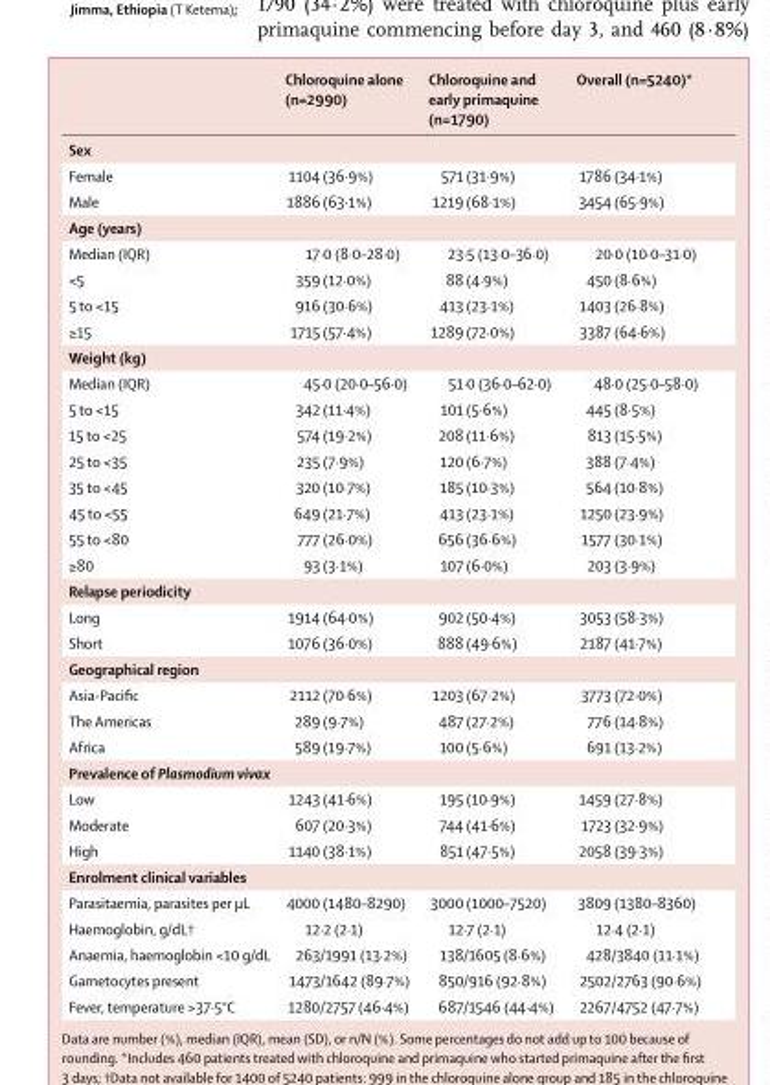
<table><thead><tr><td></td><td>Chloroquine alone (n=2990)</td><td>Chloroquine and early primaquine (n=1790)</td><td>Overall (n=5240)*</td></tr></thead><tbody><tr><td colspan="4">Sex</td></tr><tr><td>Female</td><td>1104 (36·9%)</td><td>571 (31·9%)</td><td>1786 (34·1%)</td></tr><tr><td>Male</td><td>1886 (63·1%)</td><td>1219 (68·1%)</td><td>3454 (65·9%)</td></tr><tr><td colspan="4">Age (years)</td></tr><tr><td>Median (IQR)</td><td>17·0 (8·0–28·0)</td><td>23·5 (13·0–36·0)</td><td>20·0 (10·0–31·0)</td></tr><tr><td>&lt;5</td><td>359 (12·0%)</td><td>88 (4·9%)</td><td>450 (8·6%)</td></tr><tr><td>5 to &lt;15</td><td>916 (30·6%)</td><td>413 (23·1%)</td><td>1403 (26·8%)</td></tr><tr><td>≥15</td><td>1715 (57·4%)</td><td>1289 (72·0%)</td><td>3387 (64·6%)</td></tr><tr><td colspan="4">Weight (kg)</td></tr><tr><td>Median (IQR)</td><td>45·0 (20·0–56·0)</td><td>51·0 (36·0–62·0)</td><td>48·0 (25·0–58·0)</td></tr><tr><td>5 to &lt;15</td><td>342 (11·4%)</td><td>101 (5·6%)</td><td>445 (8·5%)</td></tr><tr><td>15 to &lt;25</td><td>574 (19·2%)</td><td>208 (11·6%)</td><td>813 (15·5%)</td></tr><tr><td>25 to &lt;35</td><td>235 (7·9%)</td><td>120 (6·7%)</td><td>388 (7·4%)</td></tr><tr><td>35 to &lt;45</td><td>320 (10·7%)</td><td>185 (10·3%)</td><td>564 (10·8%)</td></tr><tr><td>45 to &lt;55</td><td>649 (21·7%)</td><td>413 (23·1%)</td><td>1250 (23·9%)</td></tr><tr><td>55 to &lt;80</td><td>777 (26·0%)</td><td>656 (36·6%)</td><td>1577 (30·1%)</td></tr><tr><td>≥80</td><td>93 (3·1%)</td><td>107 (6·0%)</td><td>203 (3·9%)</td></tr><tr><td colspan="4">Relapse periodicity</td></tr><tr><td>Long</td><td>1914 (64·0%)</td><td>902 (50·4%)</td><td>3053 (58·3%)</td></tr><tr><td>Short</td><td>1076 (36·0%)</td><td>888 (49·6%)</td><td>2187 (41·7%)</td></tr><tr><td colspan="4">Geographical region</td></tr><tr><td>Asia-Pacific</td><td>2112 (70·6%)</td><td>1203 (67·2%)</td><td>3773 (72·0%)</td></tr><tr><td>The Americas</td><td>289 (9·7%)</td><td>487 (27·2%)</td><td>776 (14·8%)</td></tr><tr><td>Africa</td><td>589 (19·7%)</td><td>100 (5·6%)</td><td>691 (13·2%)</td></tr><tr><td colspan="4">Prevalence of Plasmodium vivax</td></tr><tr><td>Low</td><td>1243 (41·6%)</td><td>195 (10·9%)</td><td>1459 (27·8%)</td></tr><tr><td>Moderate</td><td>607 (20·3%)</td><td>744 (41·6%)</td><td>1723 (32·9%)</td></tr><tr><td>High</td><td>1140 (38·1%)</td><td>851 (47·5%)</td><td>2058 (39·3%)</td></tr><tr><td colspan="4">Enrolment clinical variables</td></tr><tr><td>Parasitaemia, parasites per µL</td><td>4000 (1480–8290)</td><td>3000 (1000–7520)</td><td>3809 (1380–8360)</td></tr><tr><td>Haemoglobin, g/dL†</td><td>12·2 (2·1)</td><td>12·7 (2·1)</td><td>12·4 (2·1)</td></tr><tr><td>Anaemia, haemoglobin &lt;10 g/dL</td><td>263/1991 (13·2%)</td><td>138/1605 (8·6%)</td><td>428/3840 (11·1%)</td></tr><tr><td>Gametocytes present</td><td>1473/1642 (89·7%)</td><td>850/916 (92·8%)</td><td>2502/2763 (90·6%)</td></tr><tr><td>Fever, temperature &gt;37·5°C</td><td>1280/2757 (46·4%)</td><td>687/1546 (44·4%)</td><td>2267/4752 (47·7%)</td></tr></tbody></table>